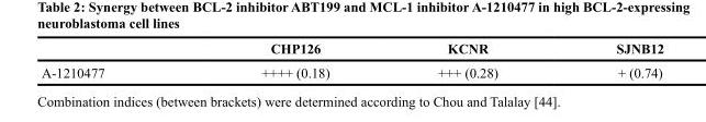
<table><thead><tr><td></td><td>CHP126</td><td>KCNR</td><td>SJNB12</td></tr></thead><tbody><tr><td>A-1210477</td><td>++++ (0.18)</td><td>+++ (0.28)</td><td>+ (0.74)</td></tr></tbody></table>